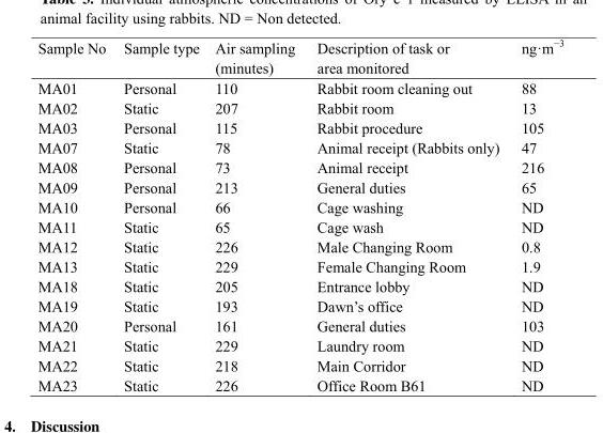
<table><thead><tr><td>Sample No</td><td>Sample type</td><td>Air sampling (minutes)</td><td>Description of task or area monitored</td><td>ng·m<sup>−3</sup></td></tr></thead><tbody><tr><td>MA01</td><td>Personal</td><td>110</td><td>Rabbit room cleaning out</td><td>88</td></tr><tr><td>MA02</td><td>Static</td><td>207</td><td>Rabbit room</td><td>13</td></tr><tr><td>MA03</td><td>Personal</td><td>115</td><td>Rabbit procedure</td><td>105</td></tr><tr><td>MA07</td><td>Static</td><td>78</td><td>Animal receipt (Rabbits only)</td><td>47</td></tr><tr><td>MA08</td><td>Personal</td><td>73</td><td>Animal receipt</td><td>216</td></tr><tr><td>MA09</td><td>Personal</td><td>213</td><td>General duties</td><td>65</td></tr><tr><td>MA10</td><td>Personal</td><td>66</td><td>Cage washing</td><td>ND</td></tr><tr><td>MA11</td><td>Static</td><td>65</td><td>Cage wash</td><td>ND</td></tr><tr><td>MA12</td><td>Static</td><td>226</td><td>Male Changing Room</td><td>0.8</td></tr><tr><td>MA13</td><td>Static</td><td>229</td><td>Female Changing Room</td><td>1.9</td></tr><tr><td>MA18</td><td>Static</td><td>205</td><td>Entrance lobby</td><td>ND</td></tr><tr><td>MA19</td><td>Static</td><td>193</td><td>Dawn’s office</td><td>ND</td></tr><tr><td>MA20</td><td>Personal</td><td>161</td><td>General duties</td><td>103</td></tr><tr><td>MA21</td><td>Static</td><td>229</td><td>Laundry room</td><td>ND</td></tr><tr><td>MA22</td><td>Static</td><td>218</td><td>Main Corridor</td><td>ND</td></tr><tr><td>MA23</td><td>Static</td><td>226</td><td>Office Room B61</td><td>ND</td></tr></tbody></table>